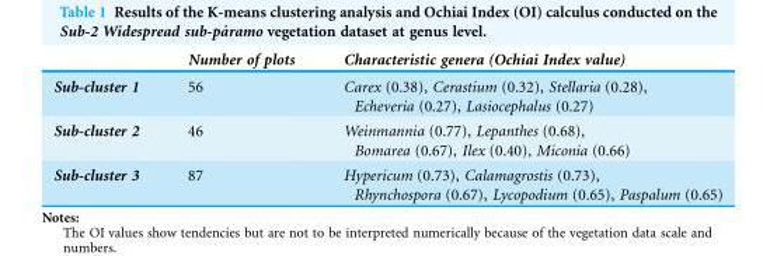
<table><thead><tr><td></td><td>Number of plots</td><td>Characteristic genera (Ochiai Index value)</td></tr></thead><tbody><tr><td>Sub-cluster 1</td><td>56</td><td>Carex (0.38), Cerastium (0.32), Stellaria (0.28), Echeveria (0.27), Lasiocephalus (0.27)</td></tr><tr><td>Sub-cluster 2</td><td>46</td><td>Weinmannia (0.77), Lepanthes (0.68), Bomarea (0.67), Ilex (0.40), Miconia (0.66)</td></tr><tr><td>Sub-cluster 3</td><td>87</td><td>Hypericum (0.73), Calamagrostis (0.73), Rhynchospora (0.67), Lycopodium (0.65), Paspalum (0.65)</td></tr></tbody></table>